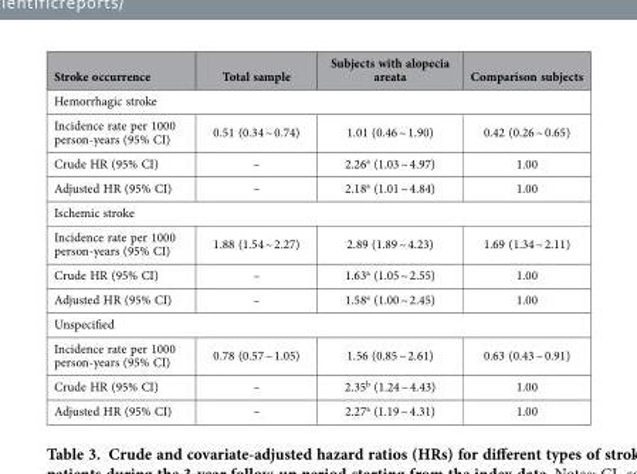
<table><thead><tr><td>Stroke occurrence</td><td>Total sample</td><td>Subjects with alopecia areata</td><td>Comparison subjects</td></tr></thead><tbody><tr><td colspan="4">Hemorrhagic stroke</td></tr><tr><td>Incidence rate per 1000 person-years (95% CI)</td><td>0.51 (0.34 ~ 0.74)</td><td>1.01 (0.46 ~ 1.90)</td><td>0.42 (0.26 ~ 0.65)</td></tr><tr><td>Crude HR (95% CI)</td><td>–</td><td>2.26<sup>a</sup> (1.03 ~ 4.97)</td><td>1.00</td></tr><tr><td>Adjusted HR (95% CI)</td><td>–</td><td>2.18<sup>a</sup> (1.01 ~ 4.84)</td><td>1.00</td></tr><tr><td colspan="4">Ischemic stroke</td></tr><tr><td>Incidence rate per 1000 person-years (95% CI)</td><td>1.88 (1.54 ~ 2.27)</td><td>2.89 (1.89 ~ 4.23)</td><td>1.69 (1.34 ~ 2.11)</td></tr><tr><td>Crude HR (95% CI)</td><td>–</td><td>1.63<sup>a</sup> (1.05 ~ 2.55)</td><td>1.00</td></tr><tr><td>Adjusted HR (95% CI)</td><td>–</td><td>1.58<sup>a</sup> (1.00 ~ 2.45)</td><td>1.00</td></tr><tr><td colspan="4">Unspecified</td></tr><tr><td>Incidence rate per 1000 person-years (95% CI)</td><td>0.78 (0.57 ~ 1.05)</td><td>1.56 (0.85 ~ 2.61)</td><td>0.63 (0.43 ~ 0.91)</td></tr><tr><td>Crude HR (95% CI)</td><td>–</td><td>2.35<sup>b</sup> (1.24 ~ 4.43)</td><td>1.00</td></tr><tr><td>Adjusted HR (95% CI)</td><td>–</td><td>2.27<sup>a</sup> (1.19 ~ 4.31)</td><td>1.00</td></tr></tbody></table>